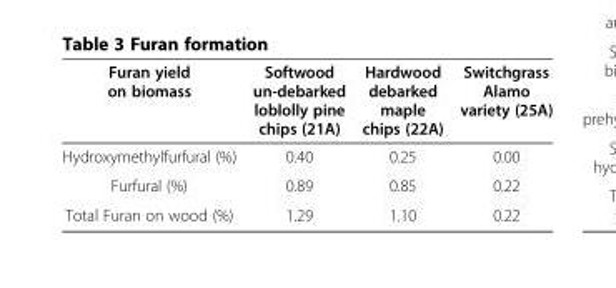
<table><thead><tr><td>Furan yield on biomass</td><td>Softwood un-debarked loblolly pine chips (21A)</td><td>Hardwood debarked maple chips (22A)</td><td>Switchgrass Alamo variety (25A)</td></tr></thead><tbody><tr><td>Hydroxymethylfurfural (%)</td><td>0.40</td><td>0.25</td><td>0.00</td></tr><tr><td>Furfural (%)</td><td>0.89</td><td>0.85</td><td>0.22</td></tr><tr><td>Total Furan on wood (%)</td><td>1.29</td><td>1.10</td><td>0.22</td></tr></tbody></table>